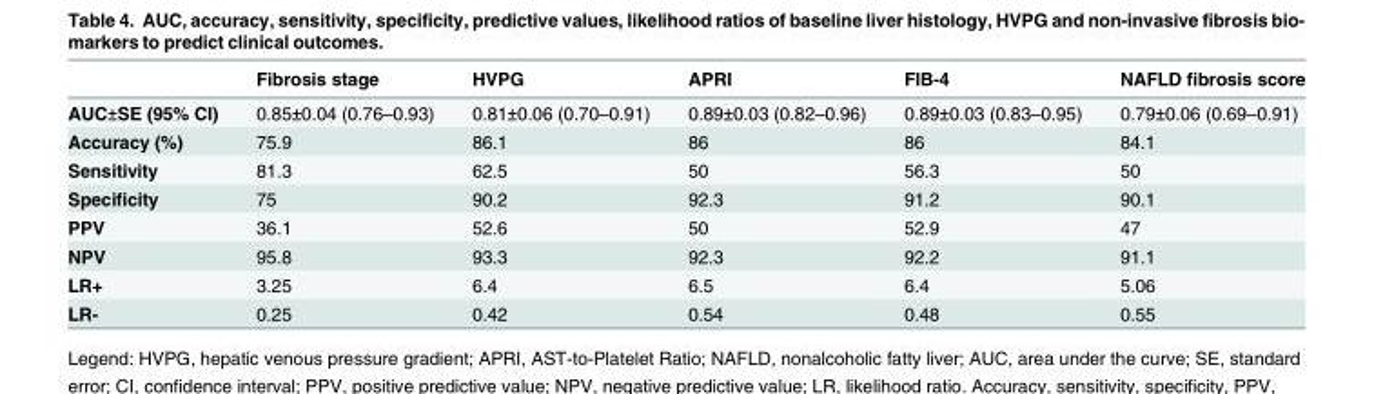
<table><thead><tr><td></td><td>Fibrosis stage</td><td>HVPG</td><td>APRI</td><td>FIB-4</td><td>NAFLD fibrosis score</td></tr></thead><tbody><tr><td>AUC±SE (95% CI)</td><td>0.85±0.04 (0.76–0.93)</td><td>0.81±0.06 (0.70–0.91)</td><td>0.89±0.03 (0.82–0.96)</td><td>0.89±0.03 (0.83–0.95)</td><td>0.79±0.06 (0.69–0.91)</td></tr><tr><td>Accuracy (%)</td><td>75.9</td><td>86.1</td><td>86</td><td>86</td><td>84.1</td></tr><tr><td>Sensitivity</td><td>81.3</td><td>62.5</td><td>50</td><td>56.3</td><td>50</td></tr><tr><td>Specificity</td><td>75</td><td>90.2</td><td>92.3</td><td>91.2</td><td>90.1</td></tr><tr><td>PPV</td><td>36.1</td><td>52.6</td><td>50</td><td>52.9</td><td>47</td></tr><tr><td>NPV</td><td>95.8</td><td>93.3</td><td>92.3</td><td>92.2</td><td>91.1</td></tr><tr><td>LR+</td><td>3.25</td><td>6.4</td><td>6.5</td><td>6.4</td><td>5.06</td></tr><tr><td>LR-</td><td>0.25</td><td>0.42</td><td>0.54</td><td>0.48</td><td>0.55</td></tr></tbody></table>